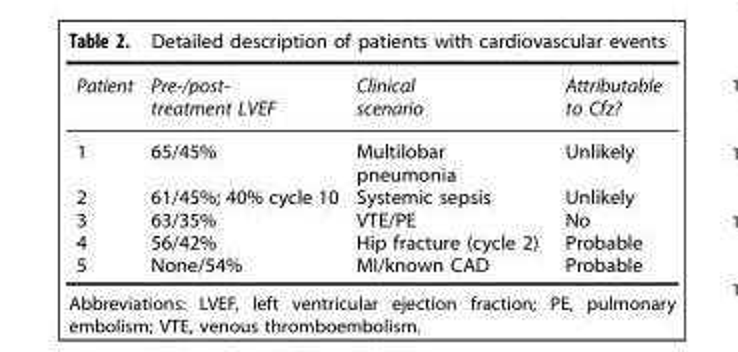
<table><thead><tr><td>Patient</td><td>Pre-/post- treatment LVEF</td><td>Clinical scenario</td><td>Attributable to Cfz?</td></tr></thead><tbody><tr><td>1</td><td>65/45%</td><td>Multilobar pneumonia</td><td>Unlikely</td></tr><tr><td>2</td><td>61/45%; 40% cycle 10</td><td>Systemic sepsis</td><td>Unlikely</td></tr><tr><td>3</td><td>63/35%</td><td>VTE/PE</td><td>No</td></tr><tr><td>4</td><td>56/42%</td><td>Hip fracture (cycle 2)</td><td>Probable</td></tr><tr><td>5</td><td>None/54%</td><td>MI/known CAD</td><td>Probable</td></tr></tbody></table>